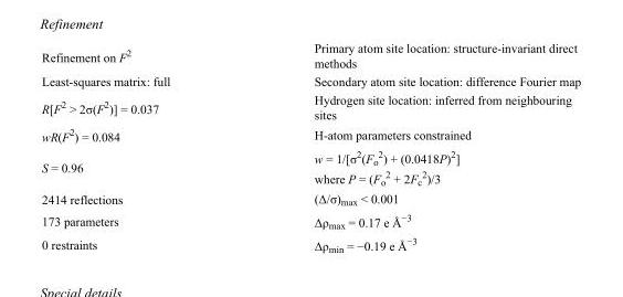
<table><tbody><tr><td>Refinement on F<sup>2</sup></td><td>Primary atom site location: structure-invariant direct methods</td></tr><tr><td>Least-squares matrix: full</td><td>Secondary atom site location: difference Fourier map</td></tr><tr><td>R[F<sup>2</sup> &gt; 2σ(F<sup>2</sup>)] = 0.037</td><td>Hydrogen site location: inferred from neighbouring sites</td></tr><tr><td>wR(F<sup>2</sup>) = 0.084</td><td>H-atom parameters constrained</td></tr><tr><td>S = 0.96</td><td>w = 1/[σ<sup>2</sup>(F<sub>o</sub> <sup>2</sup>) + (0.0418P)<sup>2</sup>] where P = (F<sub>o</sub> <sup>2</sup> + 2F<sub>c</sub> <sup>2</sup>)/3</td></tr><tr><td>2414 reflections</td><td>(Δ/σ)<sub>max</sub> &lt; 0.001</td></tr><tr><td>173 parameters</td><td>Δρ<sub>max</sub> = 0.17 e Å<sup>−3</sup></td></tr><tr><td>0 restraints</td><td>Δρ<sub>min</sub> = −0.19 e Å<sup>−3</sup></td></tr></tbody></table>